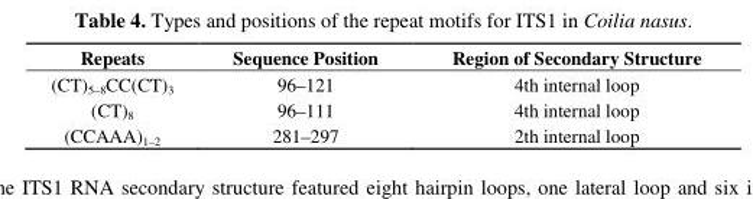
<table><thead><tr><td>Repeats</td><td>Sequence Position</td><td>Region of Secondary Structure</td></tr></thead><tbody><tr><td>(CT)<sup>5–8</sup>CC(CT)<sup>3</sup></td><td>96–121</td><td>4th internal loop</td></tr><tr><td>(CT)<sup>8</sup></td><td>96–111</td><td>4th internal loop</td></tr><tr><td>(CCAAA)<sup>1–2</sup></td><td>281–297</td><td>2th internal loop</td></tr></tbody></table>